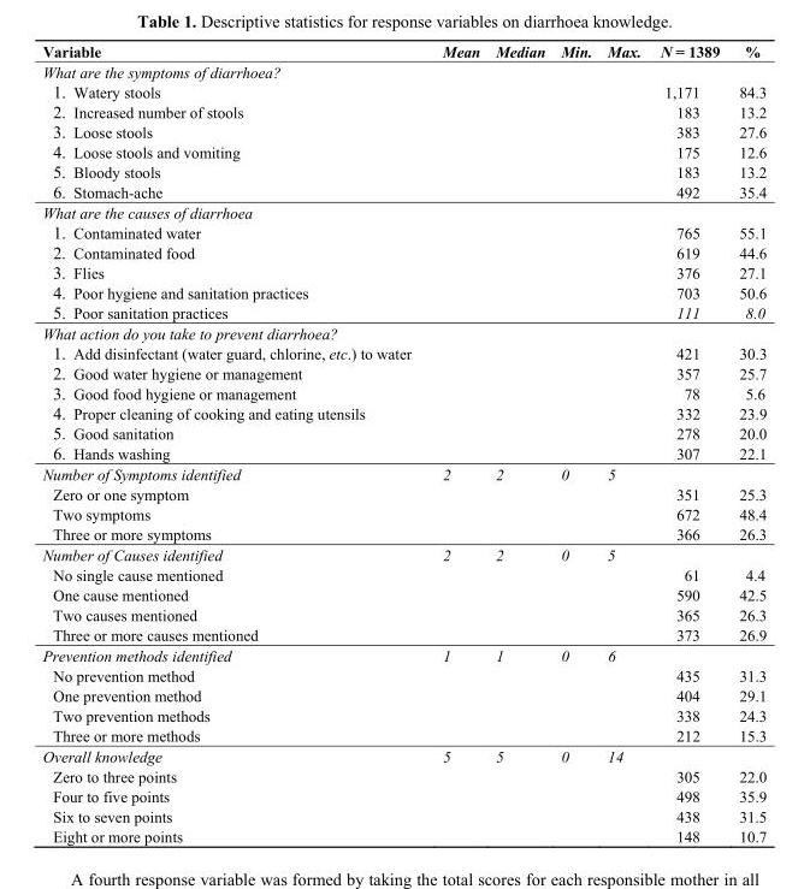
<table><thead><tr><td>Variable</td><td>Mean</td><td>Median</td><td>Min.</td><td>Max.</td><td>N = 1389</td><td>%</td></tr></thead><tbody><tr><td colspan="7">What are the symptoms of diarrhoea?</td></tr><tr><td>1. Watery stools</td><td></td><td></td><td></td><td></td><td>1,171</td><td>84.3</td></tr><tr><td>2. Increased number of stools</td><td></td><td></td><td></td><td></td><td>183</td><td>13.2</td></tr><tr><td>3. Loose stools</td><td></td><td></td><td></td><td></td><td>383</td><td>27.6</td></tr><tr><td>4. Loose stools and vomiting</td><td></td><td></td><td></td><td></td><td>175</td><td>12.6</td></tr><tr><td>5. Bloody stools</td><td></td><td></td><td></td><td></td><td>183</td><td>13.2</td></tr><tr><td>6. Stomach-ache</td><td></td><td></td><td></td><td></td><td>492</td><td>35.4</td></tr><tr><td colspan="7">What are the causes of diarrhoea</td></tr><tr><td>1. Contaminated water</td><td></td><td></td><td></td><td></td><td>765</td><td>55.1</td></tr><tr><td>2. Contaminated food</td><td></td><td></td><td></td><td></td><td>619</td><td>44.6</td></tr><tr><td>3. Flies</td><td></td><td></td><td></td><td></td><td>376</td><td>27.1</td></tr><tr><td>4. Poor hygiene and sanitation practices</td><td></td><td></td><td></td><td></td><td>703</td><td>50.6</td></tr><tr><td>5. Poor sanitation practices</td><td></td><td></td><td></td><td></td><td>111</td><td>8.0</td></tr><tr><td colspan="7">What action do you take to prevent diarrhoea?</td></tr><tr><td>1. Add disinfectant (water guard, chlorine, etc.) to water</td><td></td><td></td><td></td><td></td><td>421</td><td>30.3</td></tr><tr><td>2. Good water hygiene or management</td><td></td><td></td><td></td><td></td><td>357</td><td>25.7</td></tr><tr><td>3. Good food hygiene or management</td><td></td><td></td><td></td><td></td><td>78</td><td>5.6</td></tr><tr><td>4. Proper cleaning of cooking and eating utensils</td><td></td><td></td><td></td><td></td><td>332</td><td>23.9</td></tr><tr><td>5. Good sanitation</td><td></td><td></td><td></td><td></td><td>278</td><td>20.0</td></tr><tr><td>6. Hands washing</td><td></td><td></td><td></td><td></td><td>307</td><td>22.1</td></tr><tr><td>Number of Symptoms identified</td><td>2</td><td>2</td><td>0</td><td>5</td><td></td><td></td></tr><tr><td>Zero or one symptom</td><td></td><td></td><td></td><td></td><td>351</td><td>25.3</td></tr><tr><td>Two symptoms</td><td></td><td></td><td></td><td></td><td>672</td><td>48.4</td></tr><tr><td>Three or more symptoms</td><td></td><td></td><td></td><td></td><td>366</td><td>26.3</td></tr><tr><td>Number of Causes identified</td><td>2</td><td>2</td><td>0</td><td>5</td><td></td><td></td></tr><tr><td>No single cause mentioned</td><td></td><td></td><td></td><td></td><td>61</td><td>4.4</td></tr><tr><td>One cause mentioned</td><td></td><td></td><td></td><td></td><td>590</td><td>42.5</td></tr><tr><td>Two causes mentioned</td><td></td><td></td><td></td><td></td><td>365</td><td>26.3</td></tr><tr><td>Three or more causes mentioned</td><td></td><td></td><td></td><td></td><td>373</td><td>26.9</td></tr><tr><td>Prevention methods identified</td><td>1</td><td>1</td><td>0</td><td>6</td><td></td><td></td></tr><tr><td>No prevention method</td><td></td><td></td><td></td><td></td><td>435</td><td>31.3</td></tr><tr><td>One prevention method</td><td></td><td></td><td></td><td></td><td>404</td><td>29.1</td></tr><tr><td>Two prevention methods</td><td></td><td></td><td></td><td></td><td>338</td><td>24.3</td></tr><tr><td>Three or more methods</td><td></td><td></td><td></td><td></td><td>212</td><td>15.3</td></tr><tr><td>Overall knowledge</td><td>5</td><td>5</td><td>0</td><td>14</td><td></td><td></td></tr><tr><td>Zero to three points</td><td></td><td></td><td></td><td></td><td>305</td><td>22.0</td></tr><tr><td>Four to five points</td><td></td><td></td><td></td><td></td><td>498</td><td>35.9</td></tr><tr><td>Six to seven points</td><td></td><td></td><td></td><td></td><td>438</td><td>31.5</td></tr><tr><td>Eight or more points</td><td></td><td></td><td></td><td></td><td>148</td><td>10.7</td></tr></tbody></table>